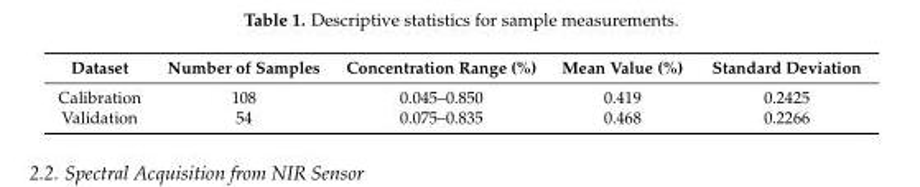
<table><thead><tr><td>Dataset</td><td>Number of Samples</td><td>Concentration Range (%)</td><td>Mean Value (%)</td><td>Standard Deviation</td></tr></thead><tbody><tr><td>Calibration</td><td>108</td><td>0.045–0.850</td><td>0.419</td><td>0.2425</td></tr><tr><td>Validation</td><td>54</td><td>0.075–0.835</td><td>0.468</td><td>0.2266</td></tr></tbody></table>